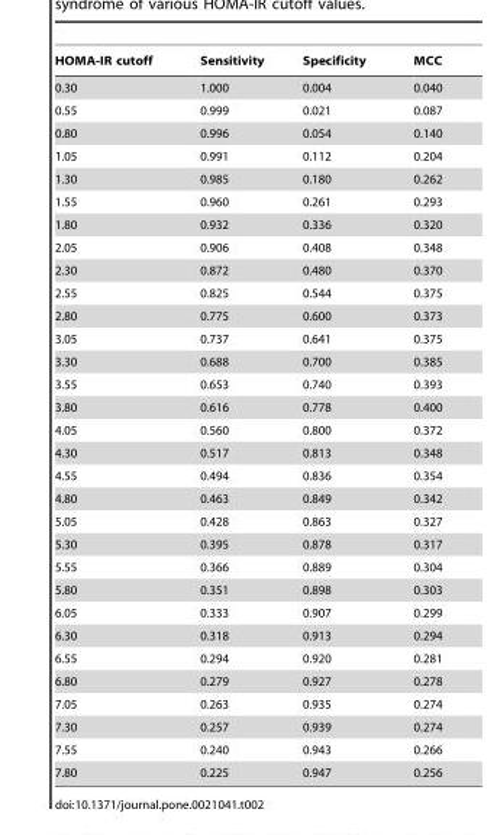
<table><thead><tr><td>HOMA-IR cutoff</td><td>Sensitivity</td><td>Specificity</td><td>MCC</td></tr></thead><tbody><tr><td>0.30</td><td>1.000</td><td>0.004</td><td>0.040</td></tr><tr><td>0.55</td><td>0.999</td><td>0.021</td><td>0.087</td></tr><tr><td>0.80</td><td>0.996</td><td>0.054</td><td>0.140</td></tr><tr><td>1.05</td><td>0.991</td><td>0.112</td><td>0.204</td></tr><tr><td>1.30</td><td>0.985</td><td>0.180</td><td>0.262</td></tr><tr><td>1.55</td><td>0.960</td><td>0.261</td><td>0.293</td></tr><tr><td>1.80</td><td>0.932</td><td>0.336</td><td>0.320</td></tr><tr><td>2.05</td><td>0.906</td><td>0.408</td><td>0.348</td></tr><tr><td>2.30</td><td>0.872</td><td>0.480</td><td>0.370</td></tr><tr><td>2.55</td><td>0.825</td><td>0.544</td><td>0.375</td></tr><tr><td>2.80</td><td>0.775</td><td>0.600</td><td>0.373</td></tr><tr><td>3.05</td><td>0.737</td><td>0.641</td><td>0.375</td></tr><tr><td>3.30</td><td>0.688</td><td>0.700</td><td>0.385</td></tr><tr><td>3.55</td><td>0.653</td><td>0.740</td><td>0.393</td></tr><tr><td>3.80</td><td>0.616</td><td>0.778</td><td>0.400</td></tr><tr><td>4.05</td><td>0.560</td><td>0.800</td><td>0.372</td></tr><tr><td>4.30</td><td>0.517</td><td>0.813</td><td>0.348</td></tr><tr><td>4.55</td><td>0.494</td><td>0.836</td><td>0.354</td></tr><tr><td>4.80</td><td>0.463</td><td>0.849</td><td>0.342</td></tr><tr><td>5.05</td><td>0.428</td><td>0.863</td><td>0.327</td></tr><tr><td>5.30</td><td>0.395</td><td>0.878</td><td>0.317</td></tr><tr><td>5.55</td><td>0.366</td><td>0.889</td><td>0.304</td></tr><tr><td>5.80</td><td>0.351</td><td>0.898</td><td>0.303</td></tr><tr><td>6.05</td><td>0.333</td><td>0.907</td><td>0.299</td></tr><tr><td>6.30</td><td>0.318</td><td>0.913</td><td>0.294</td></tr><tr><td>6.55</td><td>0.294</td><td>0.920</td><td>0.281</td></tr><tr><td>6.80</td><td>0.279</td><td>0.927</td><td>0.278</td></tr><tr><td>7.05</td><td>0.263</td><td>0.935</td><td>0.274</td></tr><tr><td>7.30</td><td>0.257</td><td>0.939</td><td>0.274</td></tr><tr><td>7.55</td><td>0.240</td><td>0.943</td><td>0.266</td></tr><tr><td>7.80</td><td>0.225</td><td>0.947</td><td>0.256</td></tr></tbody></table>